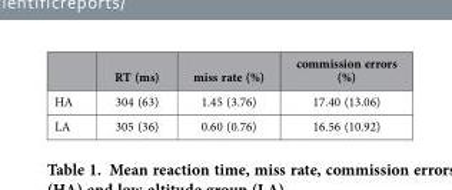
<table><thead><tr><td></td><td>RT (ms)</td><td>miss rate (%)</td><td>commission errors (%)</td></tr></thead><tbody><tr><td>HA</td><td>304 (63)</td><td>1.45 (3.76)</td><td>17.40 (13.06)</td></tr><tr><td>LA</td><td>305 (36)</td><td>0.60 (0.76)</td><td>16.56 (10.92)</td></tr></tbody></table>